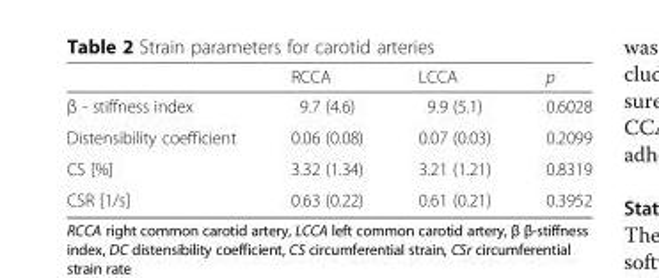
<table><thead><tr><td></td><td>RCCA</td><td>LCCA</td><td>p</td></tr></thead><tbody><tr><td>β - stiffness index</td><td>9.7 (4.6)</td><td>9.9 (5.1)</td><td>0.6028</td></tr><tr><td>Distensibility coefficient</td><td>0.06 (0.08)</td><td>0.07 (0.03)</td><td>0.2099</td></tr><tr><td>CS [%]</td><td>3.32 (1.34)</td><td>3.21 (1.21)</td><td>0.8319</td></tr><tr><td>CSR [1/s]</td><td>0.63 (0.22)</td><td>0.61 (0.21)</td><td>0.3952</td></tr></tbody></table>